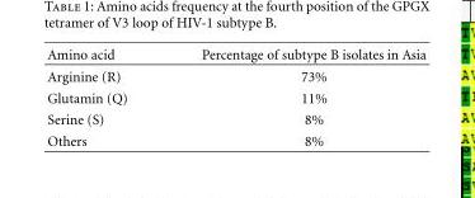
<table><thead><tr><td>Amino acid</td><td>Percentage of subtype B isolates in Asia</td></tr></thead><tbody><tr><td>Arginine (R)</td><td>73%</td></tr><tr><td>Glutamin (Q)</td><td>11%</td></tr><tr><td>Serine (S)</td><td>8%</td></tr><tr><td>Others</td><td>8%</td></tr></tbody></table>